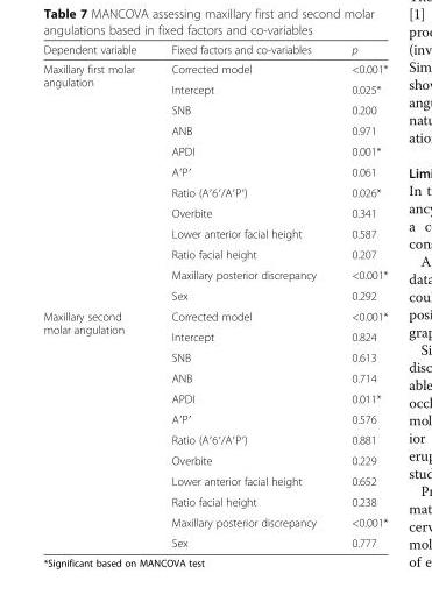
<table><thead><tr><td>Dependent variable</td><td>Fixed factors and co-variables</td><td>p</td></tr></thead><tbody><tr><td rowspan="12">Maxillary first molar angulation</td><td>Corrected model</td><td>&lt;0.001*</td></tr><tr><td>Intercept</td><td>0.025*</td></tr><tr><td>SNB</td><td>0.200</td></tr><tr><td>ANB</td><td>0.971</td></tr><tr><td>APDI</td><td>0.001*</td></tr><tr><td>A′P′</td><td>0.061</td></tr><tr><td>Ratio (A′6′/A′P′)</td><td>0.026*</td></tr><tr><td>Overbite</td><td>0.341</td></tr><tr><td>Lower anterior facial height</td><td>0.587</td></tr><tr><td>Ratio facial height</td><td>0.207</td></tr><tr><td>Maxillary posterior discrepancy</td><td>&lt;0.001*</td></tr><tr><td>Sex</td><td>0.292</td></tr><tr><td rowspan="12">Maxillary second molar angulation</td><td>Corrected model</td><td>&lt;0.001*</td></tr><tr><td>Intercept</td><td>0.824</td></tr><tr><td>SNB</td><td>0.613</td></tr><tr><td>ANB</td><td>0.714</td></tr><tr><td>APDI</td><td>0.011*</td></tr><tr><td>A′P′</td><td>0.576</td></tr><tr><td>Ratio (A′6′/A′P′)</td><td>0.881</td></tr><tr><td>Overbite</td><td>0.229</td></tr><tr><td>Lower anterior facial height</td><td>0.652</td></tr><tr><td>Ratio facial height</td><td>0.238</td></tr><tr><td>Maxillary posterior discrepancy</td><td>&lt;0.001*</td></tr><tr><td>Sex</td><td>0.777</td></tr></tbody></table>